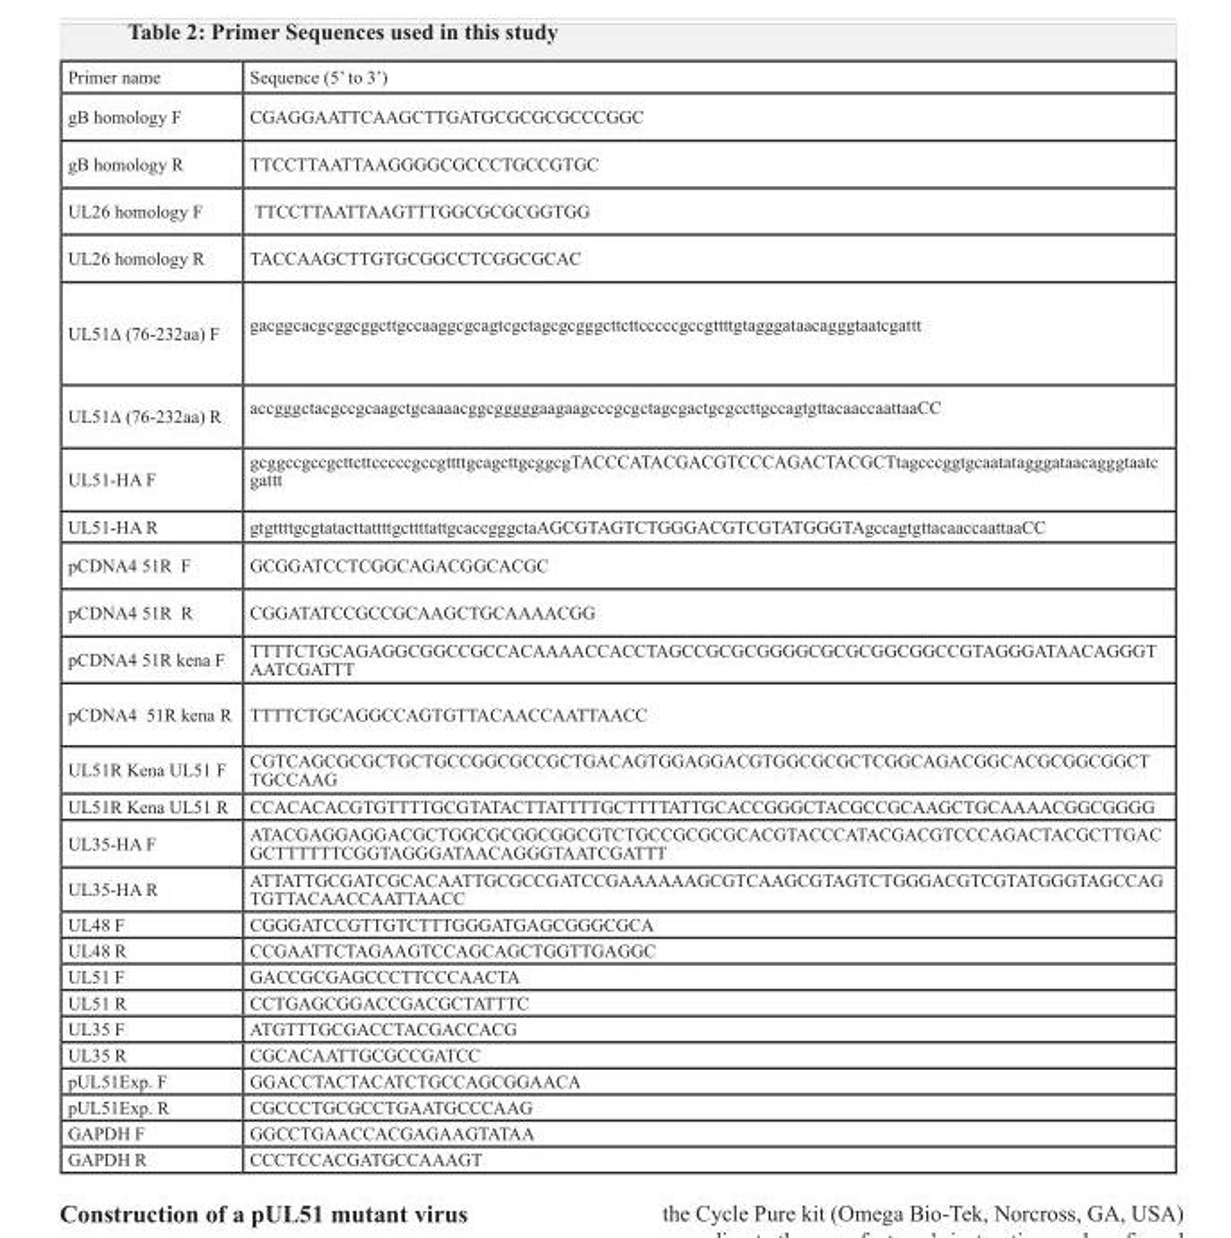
<table><thead><tr><td>Primer name</td><td>Sequence (5’ to 3’)</td></tr></thead><tbody><tr><td>gB homology F</td><td>CGAGGAATTCAAGCTTGATGCGCGCGCCCGGC</td></tr><tr><td>gB homology R</td><td>TTCCTTAATTAAGGGGCGCCCTGCCGTGC</td></tr><tr><td>UL26 homology F</td><td>TTCCTTAATTAAGTTTGGCGCGCGGTGG</td></tr><tr><td>UL26 homology R</td><td>TACCAAGCTTGTGCGGCCTCGGCGCAC</td></tr><tr><td>UL51∆ (76-232aa) F</td><td>gacggcacgcggcggcttgccaaggcgcagtcgctagcgcgggcttcttcccccgccgttttgtagggataacagggtaatcgattt</td></tr><tr><td>UL51∆ (76-232aa) R</td><td>accgggctacgccgcaagctgcaaaacggcgggggaagaagcccgcgctagcgactgcgccttgccagtgttacaaccaattaaCC</td></tr><tr><td>UL51-HA F</td><td>gcggccgccgcttcttcccccgccgttttgcagcttgcggcgTACCCATACGACGTCCCAGACTACGCTtagcccggtgcaatatagggataacagggtaatc gattt</td></tr><tr><td>UL51-HA R</td><td>gtgttttgcgtatacttattttgcttttattgcaccgggctaAGCGTAGTCTGGGACGTCGTATGGGTAgccagtgttacaaccaattaaCC</td></tr><tr><td>pCDNA4 51R F</td><td>GCGGATCCTCGGCAGACGGCACGC</td></tr><tr><td>pCDNA4 51R R</td><td>CGGATATCCGCCGCAAGCTGCAAAACGG</td></tr><tr><td>pCDNA4 51R kena F</td><td>TTTTCTGCAGAGGCGGCCGCCACAAAACCACCTAGCCGCGCGGGGCGCGCGGCGGCCGTAGGGATAACAGGGT AATCGATTT</td></tr><tr><td>pCDNA4 51R kena R</td><td>TTTTCTGCAGGCCAGTGTTACAACCAATTAACC</td></tr><tr><td>UL51R Kena UL51 F</td><td>CGTCAGCGCGCTGCTGCCGGCGCCGCTGACAGTGGAGGACGTGGCGCGCTCGGCAGACGGCACGCGGCGGCT TGCCAAG</td></tr><tr><td>UL51R Kena UL51 R</td><td>CCACACACGTGTTTTGCGTATACTTATTTTGCTTTTATTGCACCGGGCTACGCCGCAAGCTGCAAAACGGCGGGG</td></tr><tr><td>UL35-HA F</td><td>ATACGAGGAGGACGCTGGCGCGGCGGCGTCTGCCGCGCGCACGTACCCATACGACGTCCCAGACTACGCTTGAC GCTTTTTTCGGTAGGGATAACAGGGTAATCGATTT</td></tr><tr><td>UL35-HA R</td><td>ATTATTGCGATCGCACAATTGCGCCGATCCGAAAAAAGCGTCAAGCGTAGTCTGGGACGTCGTATGGGTAGCCAG TGTTACAACCAATTAACC</td></tr><tr><td>UL48 F</td><td>CGGGATCCGTTGTCTTTGGGATGAGCGGGCGCA</td></tr><tr><td>UL48 R</td><td>CCGAATTCTAGAAGTCCAGCAGCTGGTTGAGGC</td></tr><tr><td>UL51 F</td><td>GACCGCGAGCCCTTCCCAACTA</td></tr><tr><td>UL51 R</td><td>CCTGAGCGGACCGACGCTATTTC</td></tr><tr><td>UL35 F</td><td>ATGTTTGCGACCTACGACCACG</td></tr><tr><td>UL35 R</td><td>CGCACAATTGCGCCGATCC</td></tr><tr><td>pUL51Exp. F</td><td>GGACCTACTACATCTGCCAGCGGAACA</td></tr><tr><td>pUL51Exp. R</td><td>CGCCCTGCGCCTGAATGCCCAAG</td></tr><tr><td>GAPDH F</td><td>GGCCTGAACCACGAGAAGTATAA</td></tr><tr><td>GAPDH R</td><td>CCCTCCACGATGCCAAAGT</td></tr></tbody></table>